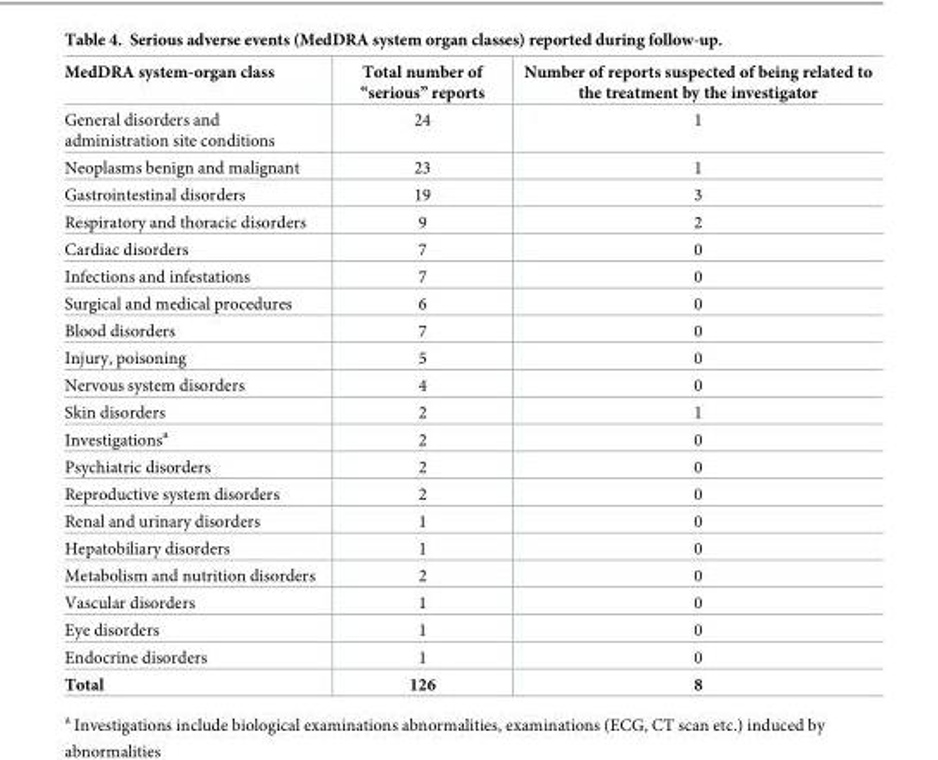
<table><thead><tr><td>MedDRA system-organ class</td><td>Total number of “serious” reports</td><td>Number of reports suspected of being related to the treatment by the investigator</td></tr></thead><tbody><tr><td>General disorders and administration site conditions</td><td>24</td><td>1</td></tr><tr><td>Neoplasms benign and malignant</td><td>23</td><td>1</td></tr><tr><td>Gastrointestinal disorders</td><td>19</td><td>3</td></tr><tr><td>Respiratory and thoracic disorders</td><td>9</td><td>2</td></tr><tr><td>Cardiac disorders</td><td>7</td><td>0</td></tr><tr><td>Infections and infestations</td><td>7</td><td>0</td></tr><tr><td>Surgical and medical procedures</td><td>6</td><td>0</td></tr><tr><td>Blood disorders</td><td>7</td><td>0</td></tr><tr><td>Injury, poisoning</td><td>5</td><td>0</td></tr><tr><td>Nervous system disorders</td><td>4</td><td>0</td></tr><tr><td>Skin disorders</td><td>2</td><td>1</td></tr><tr><td>Investigations<sup>a</sup></td><td>2</td><td>0</td></tr><tr><td>Psychiatric disorders</td><td>2</td><td>0</td></tr><tr><td>Reproductive system disorders</td><td>2</td><td>0</td></tr><tr><td>Renal and urinary disorders</td><td>1</td><td>0</td></tr><tr><td>Hepatobiliary disorders</td><td>1</td><td>0</td></tr><tr><td>Metabolism and nutrition disorders</td><td>2</td><td>0</td></tr><tr><td>Vascular disorders</td><td>1</td><td>0</td></tr><tr><td>Eye disorders</td><td>1</td><td>0</td></tr><tr><td>Endocrine disorders</td><td>1</td><td>0</td></tr><tr><td>Total</td><td>126</td><td>8</td></tr></tbody></table>